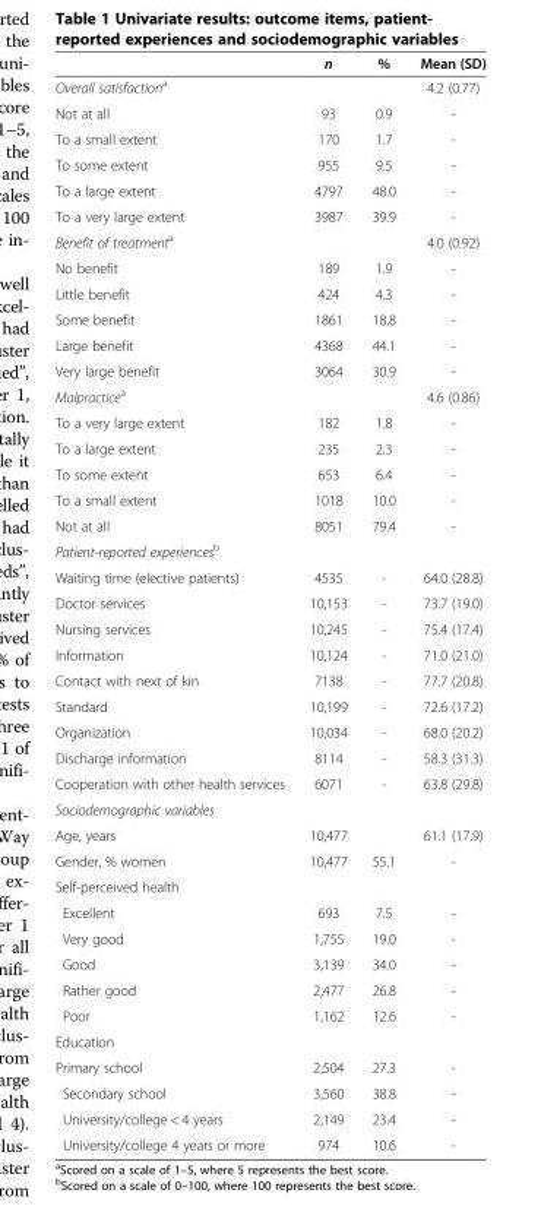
<table><thead><tr><td></td><td>n</td><td>%</td><td>Mean (SD)</td></tr></thead><tbody><tr><td>Overall satisfaction<sup>a</sup></td><td></td><td></td><td>4.2 (0.77)</td></tr><tr><td>Not at all</td><td>93</td><td>0.9</td><td>-</td></tr><tr><td>To a small extent</td><td>170</td><td>1.7</td><td>-</td></tr><tr><td>To some extent</td><td>955</td><td>9.5</td><td>-</td></tr><tr><td>To a large extent</td><td>4797</td><td>48.0</td><td>-</td></tr><tr><td>To a very large extent</td><td>3987</td><td>39.9</td><td>-</td></tr><tr><td>Benefit of treatment<sup>a</sup></td><td></td><td></td><td>4.0 (0.92)</td></tr><tr><td>No benefit</td><td>189</td><td>1.9</td><td>-</td></tr><tr><td>Little benefit</td><td>424</td><td>4.3</td><td>-</td></tr><tr><td>Some benefit</td><td>1861</td><td>18.8</td><td>-</td></tr><tr><td>Large benefit</td><td>4368</td><td>44.1</td><td>-</td></tr><tr><td>Very large benefit</td><td>3064</td><td>30.9</td><td>-</td></tr><tr><td>Malpractice<sup>a</sup></td><td></td><td></td><td>4.6 (0.86)</td></tr><tr><td>To a very large extent</td><td>182</td><td>1.8</td><td>-</td></tr><tr><td>To a large extent</td><td>235</td><td>2.3</td><td>-</td></tr><tr><td>To some extent</td><td>653</td><td>6.4</td><td>-</td></tr><tr><td>To a small extent</td><td>1018</td><td>10.0</td><td>-</td></tr><tr><td>Not at all</td><td>8051</td><td>79.4</td><td>-</td></tr><tr><td colspan="4">Patient-reported experiences<sup>b</sup></td></tr><tr><td>Waiting time (elective patients)</td><td>4535</td><td>-</td><td>64.0 (28.8)</td></tr><tr><td>Doctor services</td><td>10,153</td><td>-</td><td>73.7 (19.0)</td></tr><tr><td>Nursing services</td><td>10,245</td><td>-</td><td>75.4 (17.4)</td></tr><tr><td>Information</td><td>10,124</td><td>-</td><td>71.0 (21.0)</td></tr><tr><td>Contact with next of kin</td><td>7138</td><td>-</td><td>77.7 (20.8)</td></tr><tr><td>Standard</td><td>10,199</td><td>-</td><td>72.6 (17.2)</td></tr><tr><td>Organization</td><td>10,034</td><td>-</td><td>68.0 (20.2)</td></tr><tr><td>Discharge information</td><td>8114</td><td>-</td><td>58.3 (31.3)</td></tr><tr><td>Cooperation with other health services</td><td>6071</td><td>-</td><td>63.8 (29.8)</td></tr><tr><td colspan="4">Sociodemographic variables</td></tr><tr><td>Age, years</td><td>10,477</td><td></td><td>61.1 (17.9)</td></tr><tr><td>Gender, % women</td><td>10,477</td><td>55.1</td><td>-</td></tr><tr><td colspan="4">Self-perceived health</td></tr><tr><td>Excellent</td><td>693</td><td>7.5</td><td>-</td></tr><tr><td>Very good</td><td>1,755</td><td>19.0</td><td>-</td></tr><tr><td>Good</td><td>3,139</td><td>34.0</td><td>-</td></tr><tr><td>Rather good</td><td>2,477</td><td>26.8</td><td>-</td></tr><tr><td>Poor</td><td>1,162</td><td>12.6</td><td>-</td></tr><tr><td colspan="4">Education</td></tr><tr><td>Primary school</td><td>2,504</td><td>27.3</td><td>-</td></tr><tr><td>Secondary school</td><td>3,560</td><td>38.8</td><td>-</td></tr><tr><td>University/college &lt; 4 years</td><td>2,149</td><td>23.4</td><td>-</td></tr><tr><td>University/college 4 years or more</td><td>974</td><td>10.6</td><td>-</td></tr></tbody></table>